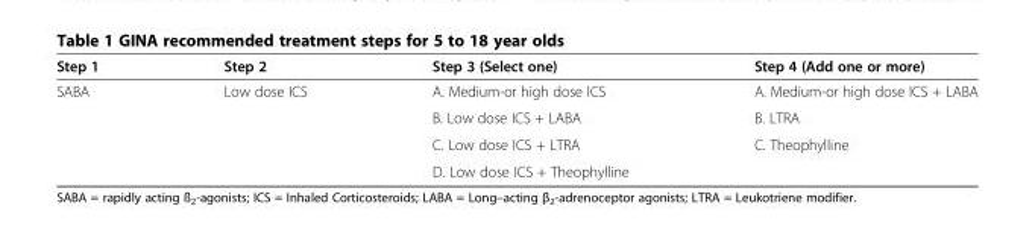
<table><thead><tr><td>Step 1</td><td>Step 2</td><td>Step 3 (Select one)</td><td>Step 4 (Add one or more)</td></tr></thead><tbody><tr><td rowspan="4">SABA</td><td>Low dose ICS</td><td>A. Medium-or high dose ICS</td><td>A. Medium-or high dose ICS + LABA</td></tr><tr><td></td><td>B. Low dose ICS + LABA</td><td>B. LTRA</td></tr><tr><td></td><td>C. Low dose ICS + LTRA</td><td>C. Theophylline</td></tr><tr><td></td><td>D. Low dose ICS + Theophylline</td><td></td></tr></tbody></table>